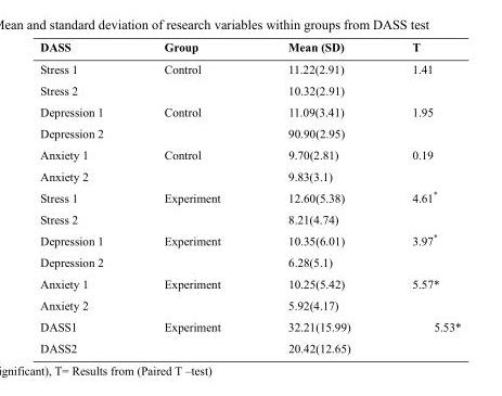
<table><thead><tr><td>DASS</td><td>Group</td><td>Mean (SD)</td><td>T</td></tr></thead><tbody><tr><td>Stress 1</td><td>Control</td><td>11.22(2.91)</td><td>1.41</td></tr><tr><td colspan="2">Stress 2</td><td colspan="2">10.32(2.91)</td></tr><tr><td>Depression 1</td><td>Control</td><td>11.09(3.41)</td><td>1.95</td></tr><tr><td colspan="2">Depression 2</td><td colspan="2">90.90(2.95)</td></tr><tr><td>Anxiety 1</td><td>Control</td><td>9.70(2.81)</td><td>0.19</td></tr><tr><td colspan="2">Anxiety 2</td><td colspan="2">9.83(3.1)</td></tr><tr><td>Stress 1</td><td>Experiment</td><td>12.60(5.38)</td><td>4.61*</td></tr><tr><td colspan="2">Stress 2</td><td colspan="2">8.21(4.74)</td></tr><tr><td>Depression 1</td><td>Experiment</td><td>10.35(6.01)</td><td>3.97*</td></tr><tr><td colspan="2">Depression 2</td><td colspan="2">6.28(5.1)</td></tr><tr><td>Anxiety 1</td><td>Experiment</td><td>10.25(5.42)</td><td>5.57*</td></tr><tr><td colspan="2">Anxiety 2</td><td colspan="2">5.92(4.17)</td></tr><tr><td>DASS1</td><td>Experiment</td><td>32.21(15.99)</td><td>5.53*</td></tr><tr><td colspan="2">DASS2</td><td colspan="2">20.42(12.65)</td></tr></tbody></table>